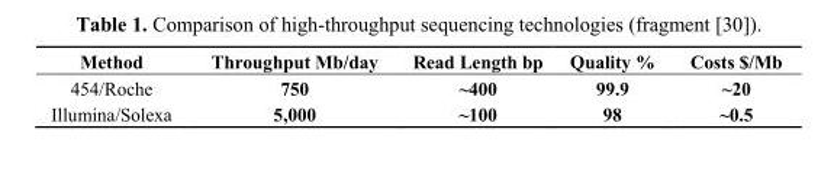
<table><thead><tr><td>Method</td><td>Throughput Mb/day</td><td>Read Length bp</td><td>Quality %</td><td>Costs $/Mb</td></tr></thead><tbody><tr><td>454/Roche</td><td>750</td><td>~400</td><td>99.9</td><td>~20</td></tr><tr><td>Illumina/Solexa</td><td>5,000</td><td>~100</td><td>98</td><td>~0.5</td></tr></tbody></table>